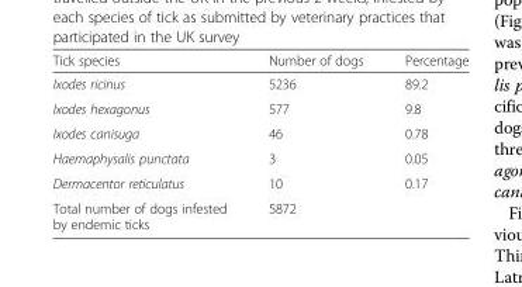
<table><thead><tr><td>Tick species</td><td>Number of dogs</td><td>Percentage</td></tr></thead><tbody><tr><td>Ixodes ricinus</td><td>5236</td><td>89.2</td></tr><tr><td>Ixodes hexagonus</td><td>577</td><td>9.8</td></tr><tr><td>Ixodes canisuga</td><td>46</td><td>0.78</td></tr><tr><td>Haemaphysalis punctata</td><td>3</td><td>0.05</td></tr><tr><td>Dermacentor reticulatus</td><td>10</td><td>0.17</td></tr><tr><td>Total number of dogs infested by endemic ticks</td><td>5872</td><td></td></tr></tbody></table>